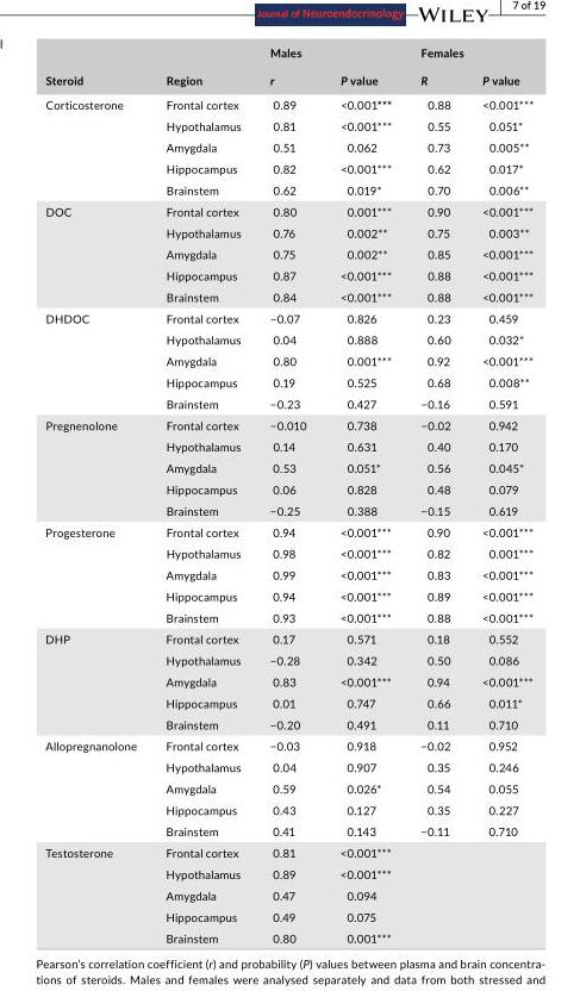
<table><thead><tr><td rowspan="2">Steroid</td><td rowspan="2">Region</td><td colspan="2">Males</td><td colspan="2">Females</td></tr><tr><td>r</td><td>P value</td><td>R</td><td>P value</td></tr></thead><tbody><tr><td rowspan="5">Corticosterone</td><td>Frontal cortex</td><td>0.89</td><td>&lt;0.001***</td><td>0.88</td><td>&lt;0.001***</td></tr><tr><td>Hypothalamus</td><td>0.81</td><td>&lt;0.001***</td><td>0.55</td><td>0.051*</td></tr><tr><td>Amygdala</td><td>0.51</td><td>0.062</td><td>0.73</td><td>0.005**</td></tr><tr><td>Hippocampus</td><td>0.82</td><td>&lt;0.001***</td><td>0.62</td><td>0.017*</td></tr><tr><td>Brainstem</td><td>0.62</td><td>0.019*</td><td>0.70</td><td>0.006**</td></tr><tr><td rowspan="5">DOC</td><td>Frontal cortex</td><td>0.80</td><td>0.001***</td><td>0.90</td><td>&lt;0.001***</td></tr><tr><td>Hypothalamus</td><td>0.76</td><td>0.002**</td><td>0.75</td><td>0.003**</td></tr><tr><td>Amygdala</td><td>0.75</td><td>0.002**</td><td>0.85</td><td>&lt;0.001***</td></tr><tr><td>Hippocampus</td><td>0.87</td><td>&lt;0.001***</td><td>0.88</td><td>&lt;0.001***</td></tr><tr><td>Brainstem</td><td>0.84</td><td>&lt;0.001***</td><td>0.88</td><td>&lt;0.001***</td></tr><tr><td rowspan="5">DHDOC</td><td>Frontal cortex</td><td>−0.07</td><td>0.826</td><td>0.23</td><td>0.459</td></tr><tr><td>Hypothalamus</td><td>0.04</td><td>0.888</td><td>0.60</td><td>0.032*</td></tr><tr><td>Amygdala</td><td>0.80</td><td>0.001***</td><td>0.92</td><td>&lt;0.001***</td></tr><tr><td>Hippocampus</td><td>0.19</td><td>0.525</td><td>0.68</td><td>0.008**</td></tr><tr><td>Brainstem</td><td>−0.23</td><td>0.427</td><td>−0.16</td><td>0.591</td></tr><tr><td rowspan="5">Pregnenolone</td><td>Frontal cortex</td><td>−0.010</td><td>0.738</td><td>−0.02</td><td>0.942</td></tr><tr><td>Hypothalamus</td><td>0.14</td><td>0.631</td><td>0.40</td><td>0.170</td></tr><tr><td>Amygdala</td><td>0.53</td><td>0.051*</td><td>0.56</td><td>0.045*</td></tr><tr><td>Hippocampus</td><td>0.06</td><td>0.828</td><td>0.48</td><td>0.079</td></tr><tr><td>Brainstem</td><td>−0.25</td><td>0.388</td><td>−0.15</td><td>0.619</td></tr><tr><td rowspan="5">Progesterone</td><td>Frontal cortex</td><td>0.94</td><td>&lt;0.001***</td><td>0.90</td><td>&lt;0.001***</td></tr><tr><td>Hypothalamus</td><td>0.98</td><td>&lt;0.001***</td><td>0.82</td><td>0.001***</td></tr><tr><td>Amygdala</td><td>0.99</td><td>&lt;0.001***</td><td>0.83</td><td>&lt;0.001***</td></tr><tr><td>Hippocampus</td><td>0.94</td><td>&lt;0.001***</td><td>0.89</td><td>&lt;0.001***</td></tr><tr><td>Brainstem</td><td>0.93</td><td>&lt;0.001***</td><td>0.88</td><td>&lt;0.001***</td></tr><tr><td rowspan="5">DHP</td><td>Frontal cortex</td><td>0.17</td><td>0.571</td><td>0.18</td><td>0.552</td></tr><tr><td>Hypothalamus</td><td>−0.28</td><td>0.342</td><td>0.50</td><td>0.086</td></tr><tr><td>Amygdala</td><td>0.83</td><td>&lt;0.001***</td><td>0.94</td><td>&lt;0.001***</td></tr><tr><td>Hippocampus</td><td>0.01</td><td>0.747</td><td>0.66</td><td>0.011*</td></tr><tr><td>Brainstem</td><td>−0.20</td><td>0.491</td><td>0.11</td><td>0.710</td></tr><tr><td rowspan="5">Allopregnanolone</td><td>Frontal cortex</td><td>−0.03</td><td>0.918</td><td>−0.02</td><td>0.952</td></tr><tr><td>Hypothalamus</td><td>0.04</td><td>0.907</td><td>0.35</td><td>0.246</td></tr><tr><td>Amygdala</td><td>0.59</td><td>0.026*</td><td>0.54</td><td>0.055</td></tr><tr><td>Hippocampus</td><td>0.43</td><td>0.127</td><td>0.35</td><td>0.227</td></tr><tr><td>Brainstem</td><td>0.41</td><td>0.143</td><td>−0.11</td><td>0.710</td></tr><tr><td rowspan="5">Testosterone</td><td>Frontal cortex</td><td>0.81</td><td>&lt;0.001***</td><td></td><td></td></tr><tr><td>Hypothalamus</td><td>0.89</td><td>&lt;0.001***</td><td></td><td></td></tr><tr><td>Amygdala</td><td>0.47</td><td>0.094</td><td></td><td></td></tr><tr><td>Hippocampus</td><td>0.49</td><td>0.075</td><td></td><td></td></tr><tr><td>Brainstem</td><td>0.80</td><td>0.001***</td><td></td><td></td></tr></tbody></table>